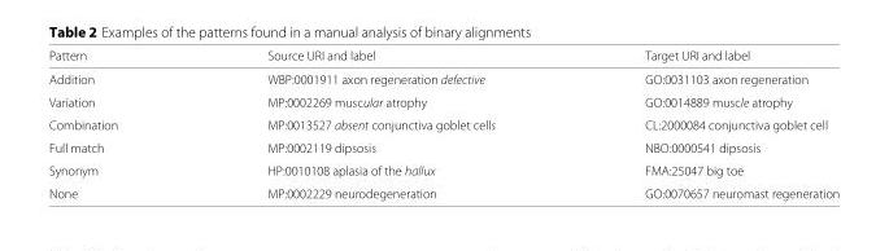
<table><thead><tr><td>Pattern</td><td>Source URI and label</td><td>Target URI and label</td></tr></thead><tbody><tr><td>Addition</td><td>WBP:0001911 axon regeneration defective</td><td>GO:0031103 axon regeneration</td></tr><tr><td>Variation</td><td>MP:0002269 muscular atrophy</td><td>GO:0014889 muscle atrophy</td></tr><tr><td>Combination</td><td>MP:0013527 absent conjunctiva goblet cells</td><td>CL:2000084 conjunctiva goblet cell</td></tr><tr><td>Full match</td><td>MP:0002119 dipsosis</td><td>NBO:0000541 dipsosis</td></tr><tr><td>Synonym</td><td>HP:0010108 aplasia of the hallux</td><td>FMA:25047 big toe</td></tr><tr><td>None</td><td>MP:0002229 neurodegeneration</td><td>GO:0070657 neuromast regeneration</td></tr></tbody></table>